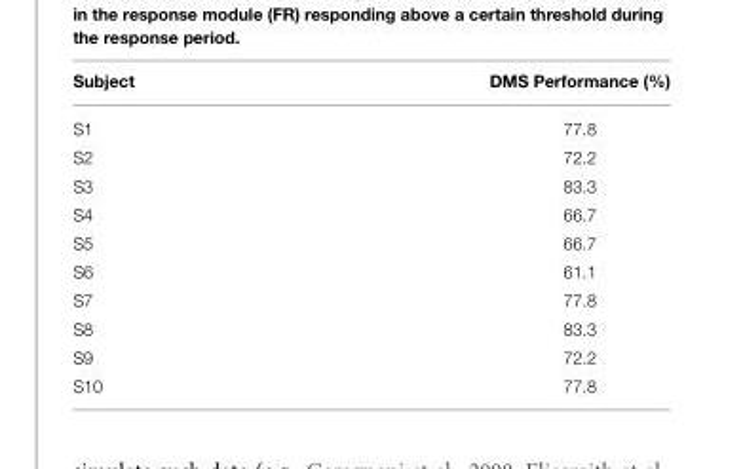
<table><thead><tr><td>Subject</td><td>DMS Performance (%)</td></tr></thead><tbody><tr><td>S1</td><td>77.8</td></tr><tr><td>S2</td><td>72.2</td></tr><tr><td>S3</td><td>83.3</td></tr><tr><td>S4</td><td>66.7</td></tr><tr><td>S5</td><td>66.7</td></tr><tr><td>S6</td><td>61.1</td></tr><tr><td>S7</td><td>77.8</td></tr><tr><td>S8</td><td>83.3</td></tr><tr><td>S9</td><td>72.2</td></tr><tr><td>S10</td><td>77.8</td></tr></tbody></table>